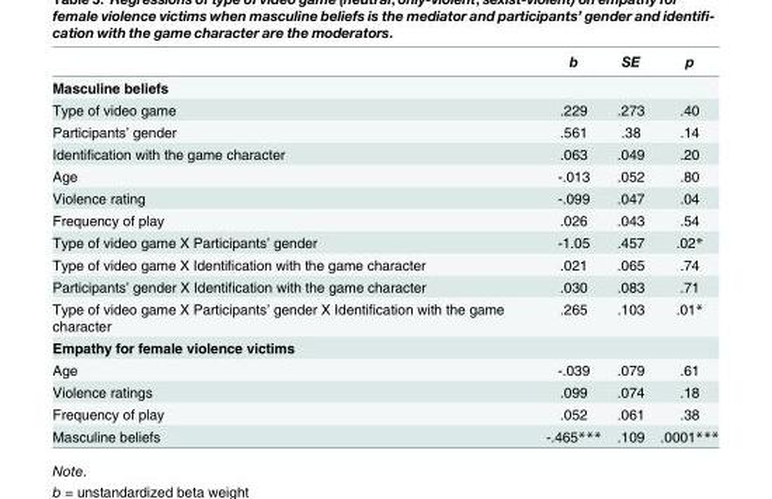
<table><thead><tr><td></td><td>b</td><td>SE</td><td>p</td></tr></thead><tbody><tr><td colspan="4">Masculine beliefs</td></tr><tr><td>Type of video game</td><td>.229</td><td>.273</td><td>.40</td></tr><tr><td>Participants’ gender</td><td>.561</td><td>.38</td><td>.14</td></tr><tr><td>Identification with the game character</td><td>.063</td><td>.049</td><td>.20</td></tr><tr><td>Age</td><td>-.013</td><td>.052</td><td>.80</td></tr><tr><td>Violence rating</td><td>-.099</td><td>.047</td><td>.04</td></tr><tr><td>Frequency of play</td><td>.026</td><td>.043</td><td>.54</td></tr><tr><td>Type of video game X Participants’ gender</td><td>-1.05</td><td>.457</td><td>.02*</td></tr><tr><td>Type of video game X Identification with the game character</td><td>.021</td><td>.065</td><td>.74</td></tr><tr><td>Participants’ gender X Identification with the game character</td><td>.030</td><td>.083</td><td>.71</td></tr><tr><td>Type of video game X Participants’ gender X Identification with the game character</td><td>.265</td><td>.103</td><td>.01*</td></tr><tr><td colspan="4">Empathy for female violence victims</td></tr><tr><td>Age</td><td>-.039</td><td>.079</td><td>.61</td></tr><tr><td>Violence ratings</td><td>.099</td><td>.074</td><td>.18</td></tr><tr><td>Frequency of play</td><td>.052</td><td>.061</td><td>.38</td></tr><tr><td>Masculine beliefs</td><td>-.465***</td><td>.109</td><td>.0001***</td></tr></tbody></table>